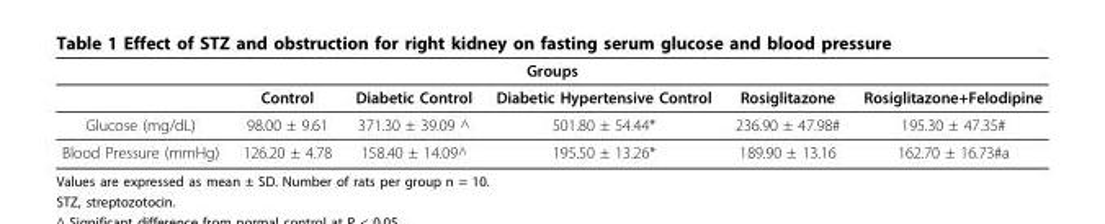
<table><thead><tr><td colspan="6">Groups</td></tr><tr><td></td><td>Control</td><td>Diabetic Control</td><td>Diabetic Hypertensive Control</td><td>Rosiglitazone</td><td>Rosiglitazone+Felodipine</td></tr></thead><tbody><tr><td>Glucose (mg/dL)</td><td>98.00 ± 9.61</td><td>371.30 ± 39.09 ^</td><td>501.80 ± 54.44*</td><td>236.90 ± 47.98#</td><td>195.30 ± 47.35#</td></tr><tr><td>Blood Pressure (mmHg)</td><td>126.20 ± 4.78</td><td>158.40 ± 14.09^</td><td>195.50 ± 13.26*</td><td>189.90 ± 13.16</td><td>162.70 ± 16.73#a</td></tr></tbody></table>